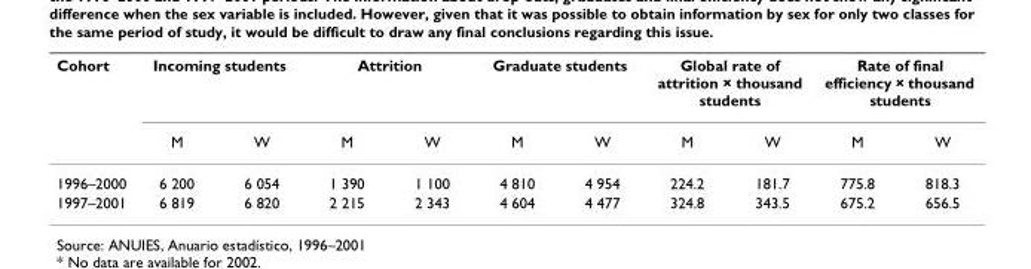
<table><thead><tr><td rowspan="2">Cohort</td><td colspan="2">Incoming students</td><td colspan="2">Attrition</td><td colspan="2">Graduate students</td><td colspan="2">Global rate of attrition × thousand students</td><td colspan="2">Rate of final efficiency × thousand students</td></tr><tr><td>M</td><td>W</td><td>M</td><td>W</td><td>M</td><td>W</td><td>M</td><td>W</td><td>M</td><td>W</td></tr></thead><tbody><tr><td>1996–2000</td><td>6 200</td><td>6 054</td><td>1 390</td><td>1 100</td><td>4 810</td><td>4 954</td><td>224.2</td><td>181.7</td><td>775.8</td><td>818.3</td></tr><tr><td>1997–2001</td><td>6 819</td><td>6 820</td><td>2 215</td><td>2 343</td><td>4 604</td><td>4 477</td><td>324.8</td><td>343.5</td><td>675.2</td><td>656.5</td></tr></tbody></table>